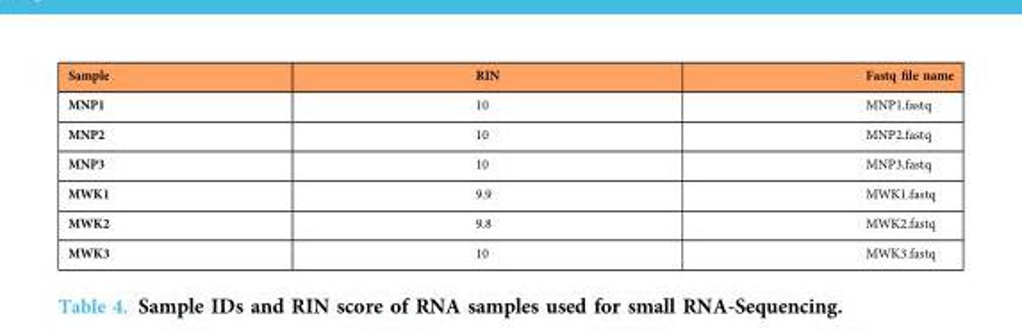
<table><thead><tr><td>Sample</td><td>RIN</td><td>Fastq file name</td></tr></thead><tbody><tr><td>MNP1</td><td>10</td><td>MNP1.fastq</td></tr><tr><td>MNP2</td><td>10</td><td>MNP2.fastq</td></tr><tr><td>MNP3</td><td>10</td><td>MNP3.fastq</td></tr><tr><td>MWK1</td><td>9.9</td><td>MWK1.fastq</td></tr><tr><td>MWK2</td><td>9.8</td><td>MWK2.fastq</td></tr><tr><td>MWK3</td><td>10</td><td>MWK3.fastq</td></tr></tbody></table>